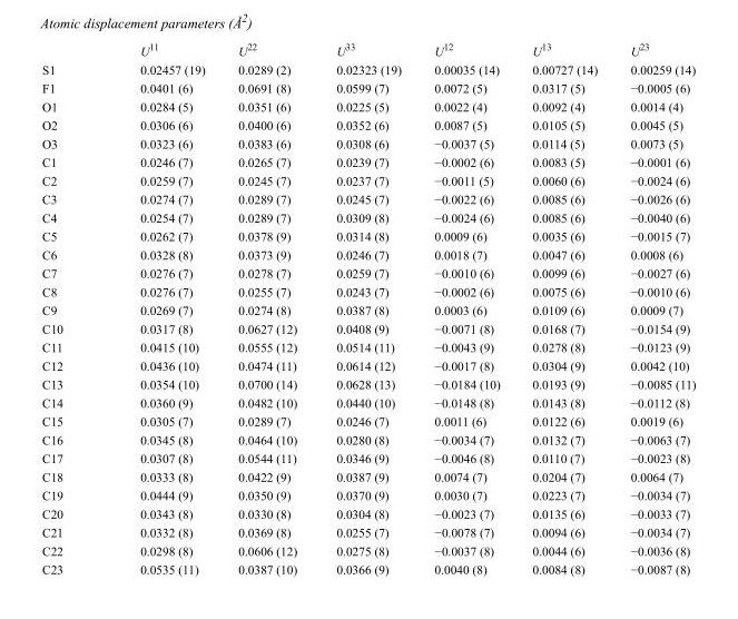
<table><thead><tr><td></td><td>U<sup>11</sup></td><td>U<sup>22</sup></td><td>U<sup>33</sup></td><td>U<sup>12</sup></td><td>U<sup>13</sup></td><td>U<sup>23</sup></td></tr></thead><tbody><tr><td>S1</td><td>0.02457 (19)</td><td>0.0289 (2)</td><td>0.02323 (19)</td><td>0.00035 (14)</td><td>0.00727 (14)</td><td>0.00259 (14)</td></tr><tr><td>F1</td><td>0.0401 (6)</td><td>0.0691 (8)</td><td>0.0599 (7)</td><td>0.0072 (5)</td><td>0.0317 (5)</td><td>−0.0005 (6)</td></tr><tr><td>O1</td><td>0.0284 (5)</td><td>0.0351 (6)</td><td>0.0225 (5)</td><td>0.0022 (4)</td><td>0.0092 (4)</td><td>0.0014 (4)</td></tr><tr><td>O2</td><td>0.0306 (6)</td><td>0.0400 (6)</td><td>0.0352 (6)</td><td>0.0087 (5)</td><td>0.0105 (5)</td><td>0.0045 (5)</td></tr><tr><td>O3</td><td>0.0323 (6)</td><td>0.0383 (6)</td><td>0.0308 (6)</td><td>−0.0037 (5)</td><td>0.0114 (5)</td><td>0.0073 (5)</td></tr><tr><td>C1</td><td>0.0246 (7)</td><td>0.0265 (7)</td><td>0.0239 (7)</td><td>−0.0002 (6)</td><td>0.0083 (5)</td><td>−0.0001 (6)</td></tr><tr><td>C2</td><td>0.0259 (7)</td><td>0.0245 (7)</td><td>0.0237 (7)</td><td>−0.0011 (5)</td><td>0.0060 (6)</td><td>−0.0024 (6)</td></tr><tr><td>C3</td><td>0.0274 (7)</td><td>0.0289 (7)</td><td>0.0245 (7)</td><td>−0.0022 (6)</td><td>0.0085 (6)</td><td>−0.0026 (6)</td></tr><tr><td>C4</td><td>0.0254 (7)</td><td>0.0289 (7)</td><td>0.0309 (8)</td><td>−0.0024 (6)</td><td>0.0085 (6)</td><td>−0.0040 (6)</td></tr><tr><td>C5</td><td>0.0262 (7)</td><td>0.0378 (9)</td><td>0.0314 (8)</td><td>0.0009 (6)</td><td>0.0035 (6)</td><td>−0.0015 (7)</td></tr><tr><td>C6</td><td>0.0328 (8)</td><td>0.0373 (9)</td><td>0.0246 (7)</td><td>0.0018 (7)</td><td>0.0047 (6)</td><td>0.0008 (6)</td></tr><tr><td>C7</td><td>0.0276 (7)</td><td>0.0278 (7)</td><td>0.0259 (7)</td><td>−0.0010 (6)</td><td>0.0099 (6)</td><td>−0.0027 (6)</td></tr><tr><td>C8</td><td>0.0276 (7)</td><td>0.0255 (7)</td><td>0.0243 (7)</td><td>−0.0002 (6)</td><td>0.0075 (6)</td><td>−0.0010 (6)</td></tr><tr><td>C9</td><td>0.0269 (7)</td><td>0.0274 (8)</td><td>0.0387 (8)</td><td>0.0003 (6)</td><td>0.0109 (6)</td><td>0.0009 (7)</td></tr><tr><td>C10</td><td>0.0317 (8)</td><td>0.0627 (12)</td><td>0.0408 (9)</td><td>−0.0071 (8)</td><td>0.0168 (7)</td><td>−0.0154 (9)</td></tr><tr><td>C11</td><td>0.0415 (10)</td><td>0.0555 (12)</td><td>0.0514 (11)</td><td>−0.0043 (9)</td><td>0.0278 (8)</td><td>−0.0123 (9)</td></tr><tr><td>C12</td><td>0.0436 (10)</td><td>0.0474 (11)</td><td>0.0614 (12)</td><td>−0.0017 (8)</td><td>0.0304 (9)</td><td>0.0042 (10)</td></tr><tr><td>C13</td><td>0.0354 (10)</td><td>0.0700 (14)</td><td>0.0628 (13)</td><td>−0.0184 (10)</td><td>0.0193 (9)</td><td>−0.0085 (11)</td></tr><tr><td>C14</td><td>0.0360 (9)</td><td>0.0482 (10)</td><td>0.0440 (10)</td><td>−0.0148 (8)</td><td>0.0143 (8)</td><td>−0.0112 (8)</td></tr><tr><td>C15</td><td>0.0305 (7)</td><td>0.0289 (7)</td><td>0.0246 (7)</td><td>0.0011 (6)</td><td>0.0122 (6)</td><td>0.0019 (6)</td></tr><tr><td>C16</td><td>0.0345 (8)</td><td>0.0464 (10)</td><td>0.0280 (8)</td><td>−0.0034 (7)</td><td>0.0132 (7)</td><td>−0.0063 (7)</td></tr><tr><td>C17</td><td>0.0307 (8)</td><td>0.0544 (11)</td><td>0.0346 (9)</td><td>−0.0046 (8)</td><td>0.0110 (7)</td><td>−0.0023 (8)</td></tr><tr><td>C18</td><td>0.0333 (8)</td><td>0.0422 (9)</td><td>0.0387 (9)</td><td>0.0074 (7)</td><td>0.0204 (7)</td><td>0.0064 (7)</td></tr><tr><td>C19</td><td>0.0444 (9)</td><td>0.0350 (9)</td><td>0.0370 (9)</td><td>0.0030 (7)</td><td>0.0223 (7)</td><td>−0.0034 (7)</td></tr><tr><td>C20</td><td>0.0343 (8)</td><td>0.0330 (8)</td><td>0.0304 (8)</td><td>−0.0023 (7)</td><td>0.0135 (6)</td><td>−0.0033 (7)</td></tr><tr><td>C21</td><td>0.0332 (8)</td><td>0.0369 (8)</td><td>0.0255 (7)</td><td>−0.0078 (7)</td><td>0.0094 (6)</td><td>−0.0034 (7)</td></tr><tr><td>C22</td><td>0.0298 (8)</td><td>0.0606 (12)</td><td>0.0275 (8)</td><td>−0.0037 (8)</td><td>0.0044 (6)</td><td>−0.0036 (8)</td></tr><tr><td>C23</td><td>0.0535 (11)</td><td>0.0387 (10)</td><td>0.0366 (9)</td><td>0.0040 (8)</td><td>0.0084 (8)</td><td>−0.0087 (8)</td></tr></tbody></table>